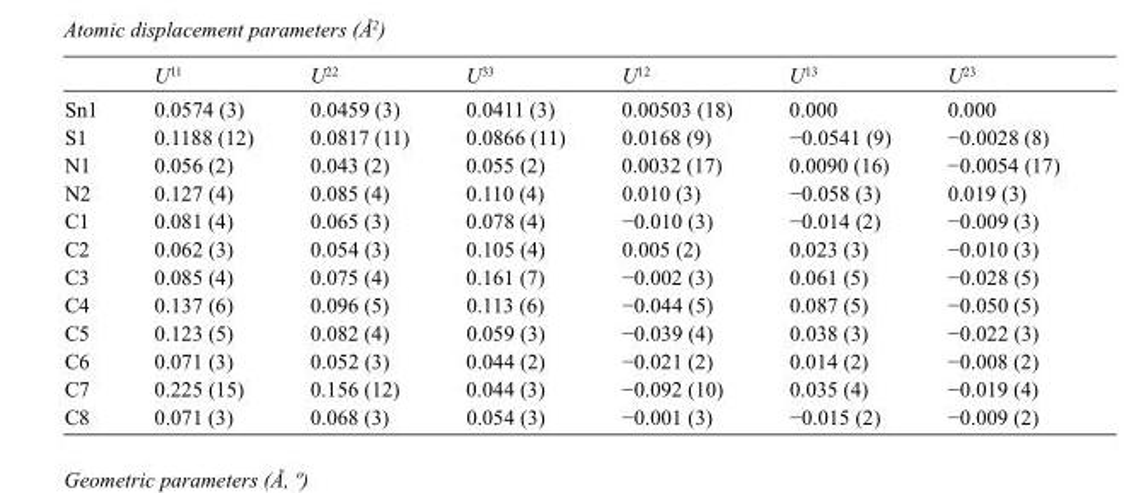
<table><thead><tr><td></td><td>U<sup>11</sup></td><td>U<sup>22</sup></td><td>U<sup>33</sup></td><td>U<sup>12</sup></td><td>U<sup>13</sup></td><td>U<sup>23</sup></td></tr></thead><tbody><tr><td>Sn1</td><td>0.0574 (3)</td><td>0.0459 (3)</td><td>0.0411 (3)</td><td>0.00503 (18)</td><td>0.000</td><td>0.000</td></tr><tr><td>S1</td><td>0.1188 (12)</td><td>0.0817 (11)</td><td>0.0866 (11)</td><td>0.0168 (9)</td><td>−0.0541 (9)</td><td>−0.0028 (8)</td></tr><tr><td>N1</td><td>0.056 (2)</td><td>0.043 (2)</td><td>0.055 (2)</td><td>0.0032 (17)</td><td>0.0090 (16)</td><td>−0.0054 (17)</td></tr><tr><td>N2</td><td>0.127 (4)</td><td>0.085 (4)</td><td>0.110 (4)</td><td>0.010 (3)</td><td>−0.058 (3)</td><td>0.019 (3)</td></tr><tr><td>C1</td><td>0.081 (4)</td><td>0.065 (3)</td><td>0.078 (4)</td><td>−0.010 (3)</td><td>−0.014 (2)</td><td>−0.009 (3)</td></tr><tr><td>C2</td><td>0.062 (3)</td><td>0.054 (3)</td><td>0.105 (4)</td><td>0.005 (2)</td><td>0.023 (3)</td><td>−0.010 (3)</td></tr><tr><td>C3</td><td>0.085 (4)</td><td>0.075 (4)</td><td>0.161 (7)</td><td>−0.002 (3)</td><td>0.061 (5)</td><td>−0.028 (5)</td></tr><tr><td>C4</td><td>0.137 (6)</td><td>0.096 (5)</td><td>0.113 (6)</td><td>−0.044 (5)</td><td>0.087 (5)</td><td>−0.050 (5)</td></tr><tr><td>C5</td><td>0.123 (5)</td><td>0.082 (4)</td><td>0.059 (3)</td><td>−0.039 (4)</td><td>0.038 (3)</td><td>−0.022 (3)</td></tr><tr><td>C6</td><td>0.071 (3)</td><td>0.052 (3)</td><td>0.044 (2)</td><td>−0.021 (2)</td><td>0.014 (2)</td><td>−0.008 (2)</td></tr><tr><td>C7</td><td>0.225 (15)</td><td>0.156 (12)</td><td>0.044 (3)</td><td>−0.092 (10)</td><td>0.035 (4)</td><td>−0.019 (4)</td></tr><tr><td>C8</td><td>0.071 (3)</td><td>0.068 (3)</td><td>0.054 (3)</td><td>−0.001 (3)</td><td>−0.015 (2)</td><td>−0.009 (2)</td></tr></tbody></table>